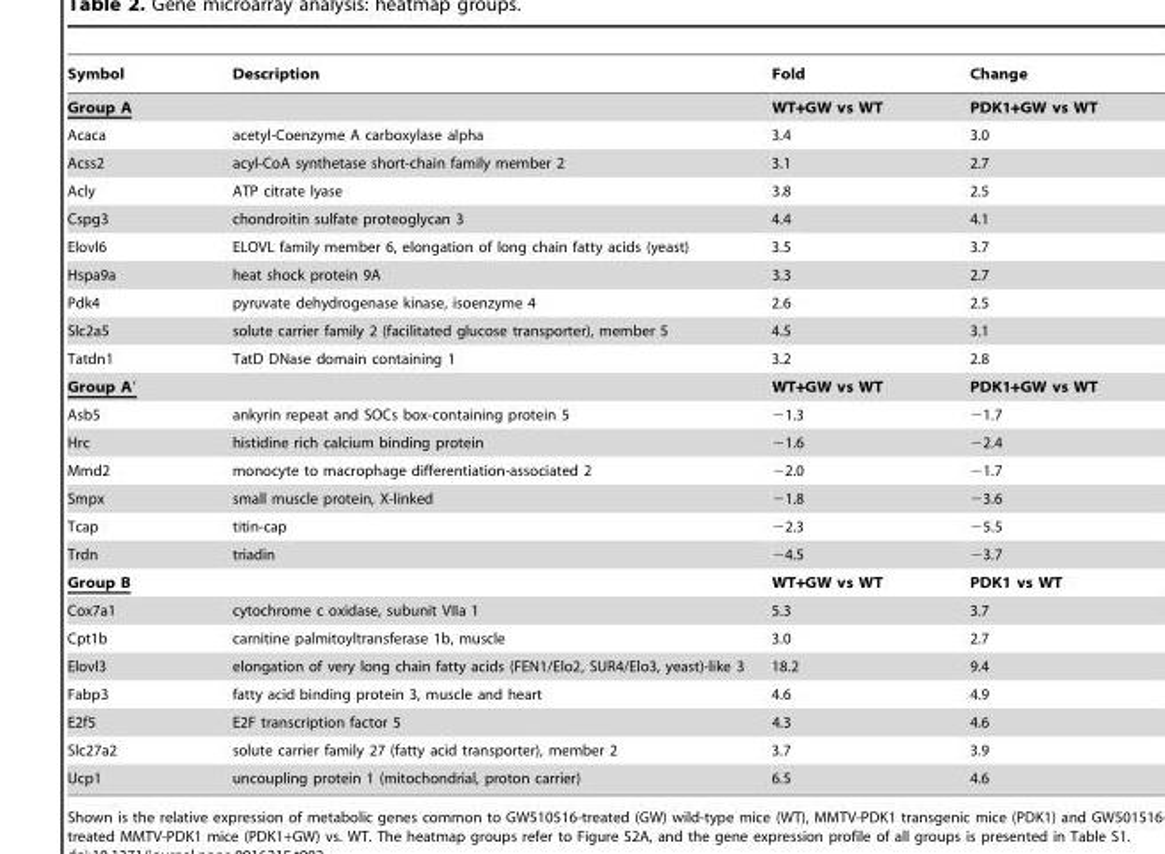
<table><thead><tr><td>Symbol</td><td>Description</td><td>Fold</td><td>Change</td></tr></thead><tbody><tr><td>Group A</td><td></td><td>WT+GW vs WT</td><td>PDK1+GW vs WT</td></tr><tr><td>Acaca</td><td>acetyl-Coenzyme A carboxylase alpha</td><td>3.4</td><td>3.0</td></tr><tr><td>Acss2</td><td>acyl-CoA synthetase short-chain family member 2</td><td>3.1</td><td>2.7</td></tr><tr><td>Acly</td><td>ATP citrate lyase</td><td>3.8</td><td>2.5</td></tr><tr><td>Cspg3</td><td>chondroitin sulfate proteoglycan 3</td><td>4.4</td><td>4.1</td></tr><tr><td>Elovl6</td><td>ELOVL family member 6, elongation of long chain fatty acids (yeast)</td><td>3.5</td><td>3.7</td></tr><tr><td>Hspa9a</td><td>heat shock protein 9A</td><td>3.3</td><td>2.7</td></tr><tr><td>Pdk4</td><td>pyruvate dehydrogenase kinase, isoenzyme 4</td><td>2.6</td><td>2.5</td></tr><tr><td>Slc2a5</td><td>solute carrier family 2 (facilitated glucose transporter), member 5</td><td>4.5</td><td>3.1</td></tr><tr><td>Tatdn1</td><td>TatD DNase domain containing 1</td><td>3.2</td><td>2.8</td></tr><tr><td>Group A′</td><td></td><td>WT+GW vs WT</td><td>PDK1+GW vs WT</td></tr><tr><td>Asb5</td><td>ankyrin repeat and SOCs box-containing protein 5</td><td>−1.3</td><td>−1.7</td></tr><tr><td>Hrc</td><td>histidine rich calcium binding protein</td><td>−1.6</td><td>−2.4</td></tr><tr><td>Mmd2</td><td>monocyte to macrophage differentiation-associated 2</td><td>−2.0</td><td>−1.7</td></tr><tr><td>Smpx</td><td>small muscle protein, X-linked</td><td>−1.8</td><td>−3.6</td></tr><tr><td>Tcap</td><td>titin-cap</td><td>−2.3</td><td>−5.5</td></tr><tr><td>Trdn</td><td>triadin</td><td>−4.5</td><td>−3.7</td></tr><tr><td>Group B</td><td></td><td>WT+GW vs WT</td><td>PDK1 vs WT</td></tr><tr><td>Cox7a1</td><td>cytochrome c oxidase, subunit VIIa 1</td><td>5.3</td><td>3.7</td></tr><tr><td>Cpt1b</td><td>carnitine palmitoyltransferase 1b, muscle</td><td>3.0</td><td>2.7</td></tr><tr><td>Elovl3</td><td>elongation of very long chain fatty acids (FEN1/Elo2, SUR4/Elo3, yeast)-like 3</td><td>18.2</td><td>9.4</td></tr><tr><td>Fabp3</td><td>fatty acid binding protein 3, muscle and heart</td><td>4.6</td><td>4.9</td></tr><tr><td>E2f5</td><td>E2F transcription factor 5</td><td>4.3</td><td>4.6</td></tr><tr><td>Slc27a2</td><td>solute carrier family 27 (fatty acid transporter), member 2</td><td>3.7</td><td>3.9</td></tr><tr><td>Ucp1</td><td>uncoupling protein 1 (mitochondrial, proton carrier)</td><td>6.5</td><td>4.6</td></tr></tbody></table>